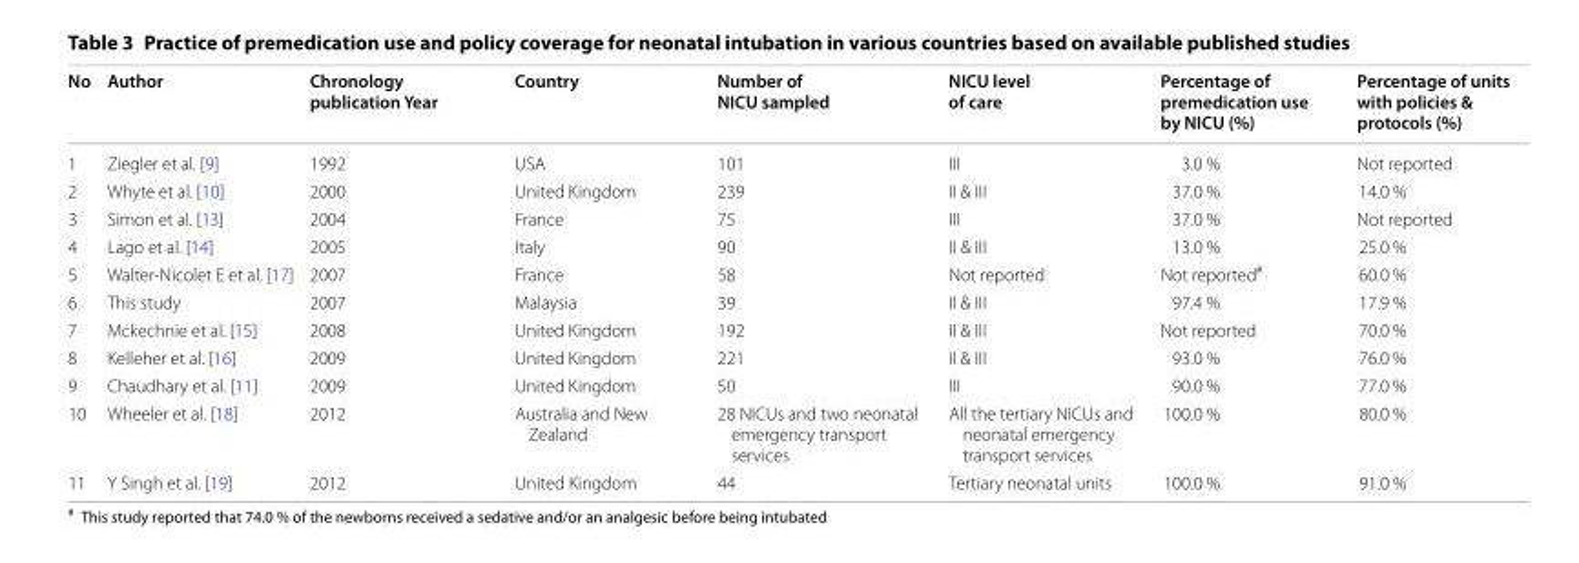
<table><thead><tr><td>No</td><td>Author</td><td>Chronology publication Year</td><td>Country</td><td>Number of NICU sampled</td><td>NICU level of care</td><td>Percentage of premedication use by NICU (%)</td><td>Percentage of units with policies &amp; protocols (%)</td></tr></thead><tbody><tr><td>1</td><td>Ziegler et al. [9]</td><td>1992</td><td>USA</td><td>101</td><td>III</td><td>3.0 %</td><td>Not reported</td></tr><tr><td>2</td><td>Whyte et al. [10]</td><td>2000</td><td>United Kingdom</td><td>239</td><td>II &amp; III</td><td>37.0 %</td><td>14.0 %</td></tr><tr><td>3</td><td>Simon et al. [13]</td><td>2004</td><td>France</td><td>75</td><td>III</td><td>37.0 %</td><td>Not reported</td></tr><tr><td>4</td><td>Lago et al. [14]</td><td>2005</td><td>Italy</td><td>90</td><td>II &amp; III</td><td>13.0 %</td><td>25.0 %</td></tr><tr><td>5</td><td>Walter‑Nicolet E et al. [17]</td><td>2007</td><td>France</td><td>58</td><td>Not reported</td><td>Not reported<sup>#</sup></td><td>60.0 %</td></tr><tr><td>6</td><td>This study</td><td>2007</td><td>Malaysia</td><td>39</td><td>II &amp; III</td><td>97.4 %</td><td>17.9 %</td></tr><tr><td>7</td><td>Mckechnie et al. [15]</td><td>2008</td><td>United Kingdom</td><td>192</td><td>II &amp; III</td><td>Not reported</td><td>70.0 %</td></tr><tr><td>8</td><td>Kelleher et al. [16]</td><td>2009</td><td>United Kingdom</td><td>221</td><td>II &amp; III</td><td>93.0 %</td><td>76.0 %</td></tr><tr><td>9</td><td>Chaudhary et al. [11]</td><td>2009</td><td>United Kingdom</td><td>50</td><td>III</td><td>90.0 %</td><td>77.0 %</td></tr><tr><td>10</td><td>Wheeler et al. [18]</td><td>2012</td><td>Australia and New Zealand</td><td>28 NICUs and two neonatal emergency transport services</td><td>All the tertiary NICUs and neonatal emergency transport services</td><td>100.0 %</td><td>80.0 %</td></tr><tr><td>11</td><td>Y Singh et al. [19]</td><td>2012</td><td>United Kingdom</td><td>44</td><td>Tertiary neonatal units</td><td>100.0 %</td><td>91.0 %</td></tr></tbody></table>